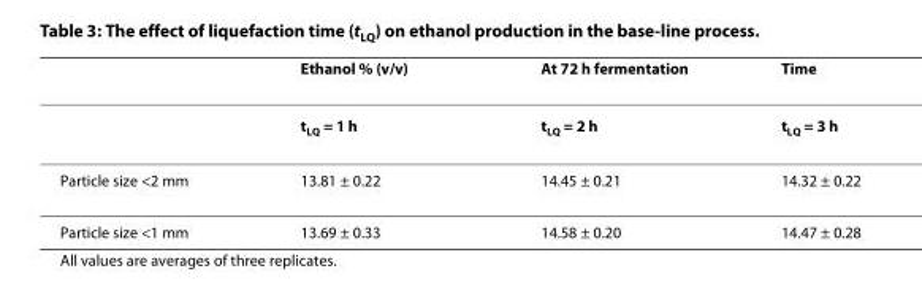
<table><thead><tr><td></td><td>Ethanol % (v/v)</td><td>At 72 h fermentation</td><td>Time</td></tr></thead><tbody><tr><td></td><td>t<sub>LQ</sub> = 1 h</td><td>t<sub>LQ</sub> = 2 h</td><td>t<sub>LQ</sub> = 3 h</td></tr><tr><td>Particle size &lt;2 mm</td><td>13.81 ± 0.22</td><td>14.45 ± 0.21</td><td>14.32 ± 0.22</td></tr><tr><td>Particle size &lt;1 mm</td><td>13.69 ± 0.33</td><td>14.58 ± 0.20</td><td>14.47 ± 0.28</td></tr></tbody></table>